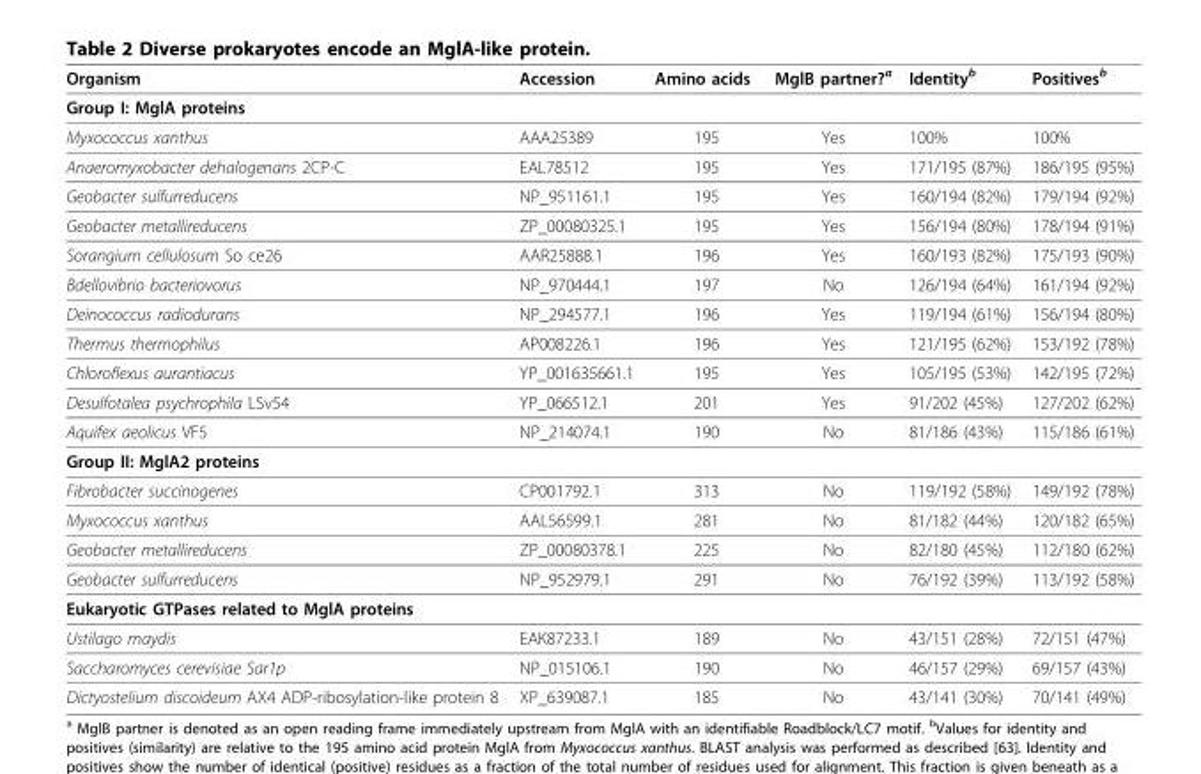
<table><thead><tr><td>Organism</td><td>Accession</td><td>Amino acids</td><td>MglB partner?<sup>a</sup></td><td>Identity<sup>b</sup></td><td>Positives<sup>b</sup></td></tr></thead><tbody><tr><td colspan="6">Group I: MglA proteins</td></tr><tr><td>Myxococcus xanthus</td><td>AAA25389</td><td>195</td><td>Yes</td><td>100%</td><td>100%</td></tr><tr><td>Anaeromyxobacter dehalogenans 2CP-C</td><td>EAL78512</td><td>195</td><td>Yes</td><td>171/195 (87%)</td><td>186/195 (95%)</td></tr><tr><td>Geobacter sulfurreducens</td><td>NP_951161.1</td><td>195</td><td>Yes</td><td>160/194 (82%)</td><td>179/194 (92%)</td></tr><tr><td>Geobacter metallireducens</td><td>ZP_00080325.1</td><td>195</td><td>Yes</td><td>156/194 (80%)</td><td>178/194 (91%)</td></tr><tr><td>Sorangium cellulosum So ce26</td><td>AAR25888.1</td><td>196</td><td>Yes</td><td>160/193 (82%)</td><td>175/193 (90%)</td></tr><tr><td>Bdellovibrio bacteriovorus</td><td>NP_970444.1</td><td>197</td><td>No</td><td>126/194 (64%)</td><td>161/194 (92%)</td></tr><tr><td>Deinococcus radiodurans</td><td>NP_294577.1</td><td>196</td><td>Yes</td><td>119/194 (61%)</td><td>156/194 (80%)</td></tr><tr><td>Thermus thermophilus</td><td>AP008226.1</td><td>196</td><td>Yes</td><td>121/195 (62%)</td><td>153/192 (78%)</td></tr><tr><td>Chloroflexus aurantiacus</td><td>YP_001635661.1</td><td>195</td><td>Yes</td><td>105/195 (53%)</td><td>142/195 (72%)</td></tr><tr><td>Desulfotalea psychrophila LSv54</td><td>YP_066512.1</td><td>201</td><td>Yes</td><td>91/202 (45%)</td><td>127/202 (62%)</td></tr><tr><td>Aquifex aeolicus VF5</td><td>NP_214074.1</td><td>190</td><td>No</td><td>81/186 (43%)</td><td>115/186 (61%)</td></tr><tr><td colspan="6">Group II: MglA2 proteins</td></tr><tr><td>Fibrobacter succinogenes</td><td>CP001792.1</td><td>313</td><td>No</td><td>119/192 (58%)</td><td>149/192 (78%)</td></tr><tr><td>Myxococcus xanthus</td><td>AAL56599.1</td><td>281</td><td>No</td><td>81/182 (44%)</td><td>120/182 (65%)</td></tr><tr><td>Geobacter metallireducens</td><td>ZP_00080378.1</td><td>225</td><td>No</td><td>82/180 (45%)</td><td>112/180 (62%)</td></tr><tr><td>Geobacter sulfurreducens</td><td>NP_952979.1</td><td>291</td><td>No</td><td>76/192 (39%)</td><td>113/192 (58%)</td></tr><tr><td colspan="6">Eukaryotic GTPases related to MglA proteins</td></tr><tr><td>Ustilago maydis</td><td>EAK87233.1</td><td>189</td><td>No</td><td>43/151 (28%)</td><td>72/151 (47%)</td></tr><tr><td>Saccharomyces cerevisiae Sar1p</td><td>NP_015106.1</td><td>190</td><td>No</td><td>46/157 (29%)</td><td>69/157 (43%)</td></tr><tr><td>Dictyostelium discoideum AX4 ADP-ribosylation-like protein 8</td><td>XP_639087.1</td><td>185</td><td>No</td><td>43/141 (30%)</td><td>70/141 (49%)</td></tr></tbody></table>